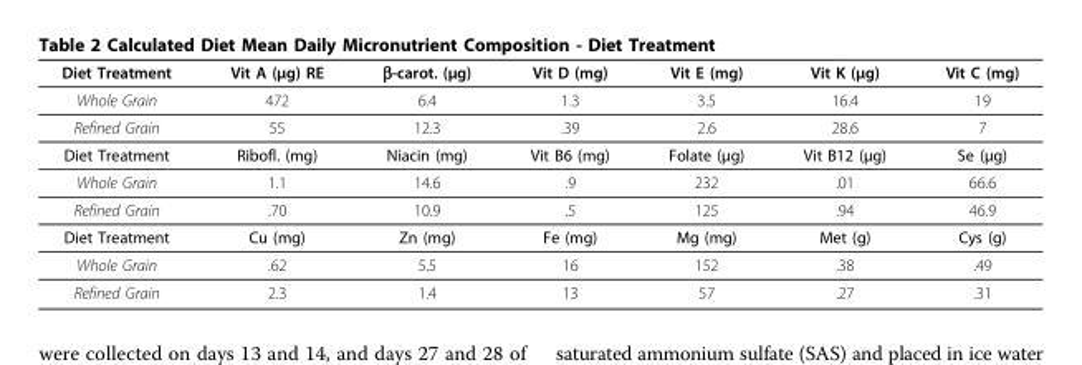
<table><thead><tr><td>Diet Treatment</td><td>Vit A (μg) RE</td><td>β-carot. (μg)</td><td>Vit D (mg)</td><td>Vit E (mg)</td><td>Vit K (μg)</td><td>Vit C (mg)</td></tr></thead><tbody><tr><td>Whole Grain</td><td>472</td><td>6.4</td><td>1.3</td><td>3.5</td><td>16.4</td><td>19</td></tr><tr><td>Refined Grain</td><td>55</td><td>12.3</td><td>.39</td><td>2.6</td><td>28.6</td><td>7</td></tr><tr><td>Diet Treatment</td><td>Ribofl. (mg)</td><td>Niacin (mg)</td><td>Vit B6 (mg)</td><td>Folate (μg)</td><td>Vit B12 (μg)</td><td>Se (μg)</td></tr><tr><td>Whole Grain</td><td>1.1</td><td>14.6</td><td>.9</td><td>232</td><td>.01</td><td>66.6</td></tr><tr><td>Refined Grain</td><td>.70</td><td>10.9</td><td>.5</td><td>125</td><td>.94</td><td>46.9</td></tr><tr><td>Diet Treatment</td><td>Cu (mg)</td><td>Zn (mg)</td><td>Fe (mg)</td><td>Mg (mg)</td><td>Met (g)</td><td>Cys (g)</td></tr><tr><td>Whole Grain</td><td>.62</td><td>5.5</td><td>16</td><td>152</td><td>.38</td><td>.49</td></tr><tr><td>Refined Grain</td><td>2.3</td><td>1.4</td><td>13</td><td>57</td><td>.27</td><td>.31</td></tr></tbody></table>